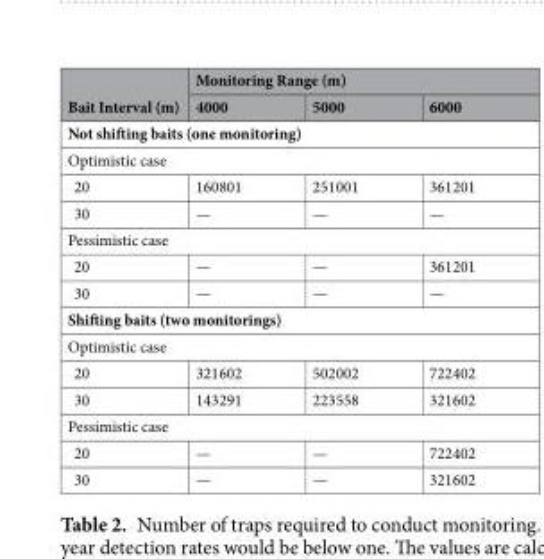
<table><thead><tr><td rowspan="2">Bait Interval (m)</td><td colspan="3">Monitoring Range (m)</td></tr><tr><td>4000</td><td>5000</td><td>6000</td></tr></thead><tbody><tr><td colspan="4">Not shifting baits (one monitoring)</td></tr><tr><td colspan="4">Optimistic case</td></tr><tr><td>20</td><td>160801</td><td>251001</td><td>361201</td></tr><tr><td>30</td><td>—</td><td>—</td><td>—</td></tr><tr><td colspan="4">Pessimistic case</td></tr><tr><td>20</td><td>—</td><td>—</td><td>361201</td></tr><tr><td>30</td><td>—</td><td>—</td><td>—</td></tr><tr><td colspan="4">Shifting baits (two monitorings)</td></tr><tr><td colspan="4">Optimistic case</td></tr><tr><td>20</td><td>321602</td><td>502002</td><td>722402</td></tr><tr><td>30</td><td>143291</td><td>223558</td><td>321602</td></tr><tr><td colspan="4">Pessimistic case</td></tr><tr><td>20</td><td>—</td><td>—</td><td>722402</td></tr><tr><td>30</td><td>—</td><td>—</td><td>321602</td></tr></tbody></table>